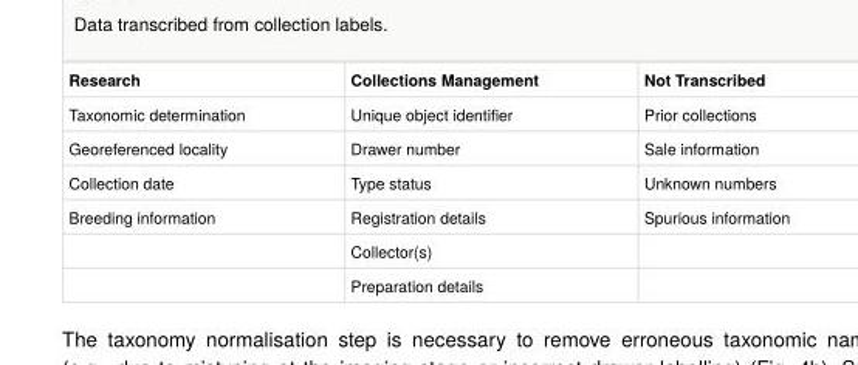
<table><tbody><tr><td>Research</td><td>Collections Management</td><td>Not Transcribed</td></tr><tr><td>Taxonomic determination</td><td>Unique object identifier</td><td>Prior collections</td></tr><tr><td>Georeferenced locality</td><td>Drawer number</td><td>Sale information</td></tr><tr><td>Collection date</td><td>Type status</td><td>Unknown numbers</td></tr><tr><td rowspan="3">Breeding information</td><td>Registration details</td><td>Spurious information</td></tr><tr><td>Collector(s)</td><td></td></tr><tr><td>Preparation details</td><td></td></tr></tbody></table>